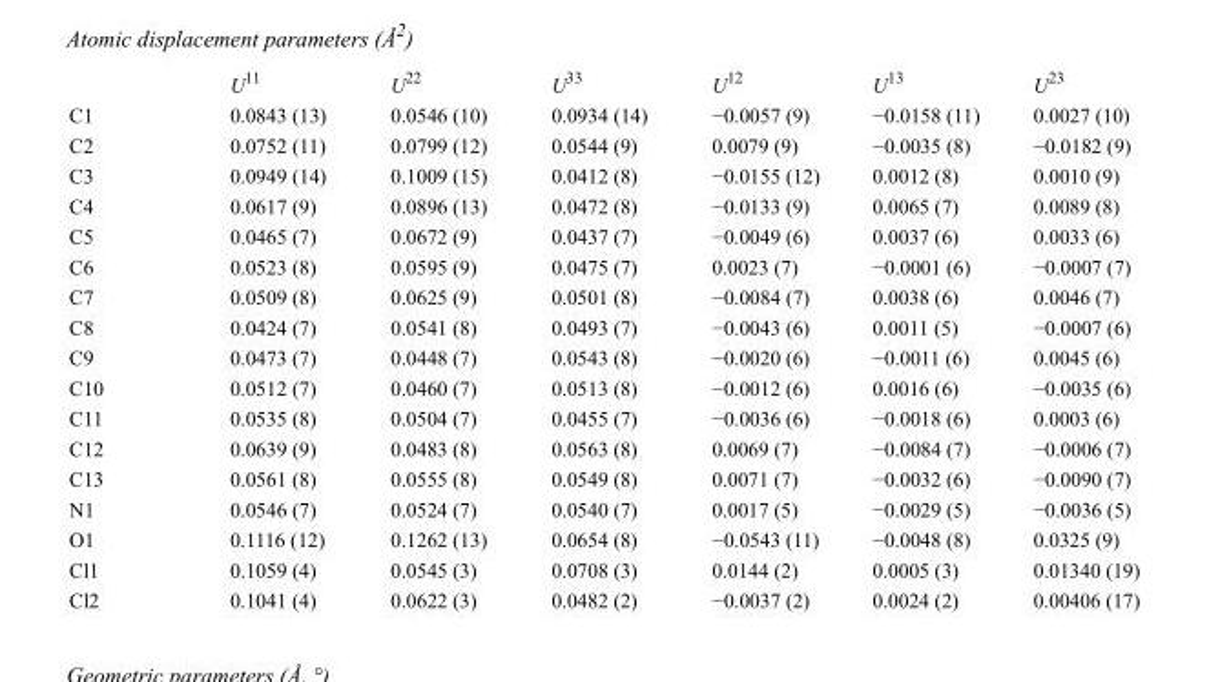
<table><thead><tr><td></td><td>U<sup>11</sup></td><td>U<sup>22</sup></td><td>U<sup>33</sup></td><td>U<sup>12</sup></td><td>U<sup>13</sup></td><td>U<sup>23</sup></td></tr></thead><tbody><tr><td>C1</td><td>0.0843 (13)</td><td>0.0546 (10)</td><td>0.0934 (14)</td><td>−0.0057 (9)</td><td>−0.0158 (11)</td><td>0.0027 (10)</td></tr><tr><td>C2</td><td>0.0752 (11)</td><td>0.0799 (12)</td><td>0.0544 (9)</td><td>0.0079 (9)</td><td>−0.0035 (8)</td><td>−0.0182 (9)</td></tr><tr><td>C3</td><td>0.0949 (14)</td><td>0.1009 (15)</td><td>0.0412 (8)</td><td>−0.0155 (12)</td><td>0.0012 (8)</td><td>0.0010 (9)</td></tr><tr><td>C4</td><td>0.0617 (9)</td><td>0.0896 (13)</td><td>0.0472 (8)</td><td>−0.0133 (9)</td><td>0.0065 (7)</td><td>0.0089 (8)</td></tr><tr><td>C5</td><td>0.0465 (7)</td><td>0.0672 (9)</td><td>0.0437 (7)</td><td>−0.0049 (6)</td><td>0.0037 (6)</td><td>0.0033 (6)</td></tr><tr><td>C6</td><td>0.0523 (8)</td><td>0.0595 (9)</td><td>0.0475 (7)</td><td>0.0023 (7)</td><td>−0.0001 (6)</td><td>−0.0007 (7)</td></tr><tr><td>C7</td><td>0.0509 (8)</td><td>0.0625 (9)</td><td>0.0501 (8)</td><td>−0.0084 (7)</td><td>0.0038 (6)</td><td>0.0046 (7)</td></tr><tr><td>C8</td><td>0.0424 (7)</td><td>0.0541 (8)</td><td>0.0493 (7)</td><td>−0.0043 (6)</td><td>0.0011 (5)</td><td>−0.0007 (6)</td></tr><tr><td>C9</td><td>0.0473 (7)</td><td>0.0448 (7)</td><td>0.0543 (8)</td><td>−0.0020 (6)</td><td>−0.0011 (6)</td><td>0.0045 (6)</td></tr><tr><td>C10</td><td>0.0512 (7)</td><td>0.0460 (7)</td><td>0.0513 (8)</td><td>−0.0012 (6)</td><td>0.0016 (6)</td><td>−0.0035 (6)</td></tr><tr><td>C11</td><td>0.0535 (8)</td><td>0.0504 (7)</td><td>0.0455 (7)</td><td>−0.0036 (6)</td><td>−0.0018 (6)</td><td>0.0003 (6)</td></tr><tr><td>C12</td><td>0.0639 (9)</td><td>0.0483 (8)</td><td>0.0563 (8)</td><td>0.0069 (7)</td><td>−0.0084 (7)</td><td>−0.0006 (7)</td></tr><tr><td>C13</td><td>0.0561 (8)</td><td>0.0555 (8)</td><td>0.0549 (8)</td><td>0.0071 (7)</td><td>−0.0032 (6)</td><td>−0.0090 (7)</td></tr><tr><td>N1</td><td>0.0546 (7)</td><td>0.0524 (7)</td><td>0.0540 (7)</td><td>0.0017 (5)</td><td>−0.0029 (5)</td><td>−0.0036 (5)</td></tr><tr><td>O1</td><td>0.1116 (12)</td><td>0.1262 (13)</td><td>0.0654 (8)</td><td>−0.0543 (11)</td><td>−0.0048 (8)</td><td>0.0325 (9)</td></tr><tr><td>Cl1</td><td>0.1059 (4)</td><td>0.0545 (3)</td><td>0.0708 (3)</td><td>0.0144 (2)</td><td>0.0005 (3)</td><td>0.01340 (19)</td></tr><tr><td>Cl2</td><td>0.1041 (4)</td><td>0.0622 (3)</td><td>0.0482 (2)</td><td>−0.0037 (2)</td><td>0.0024 (2)</td><td>0.00406 (17)</td></tr></tbody></table>